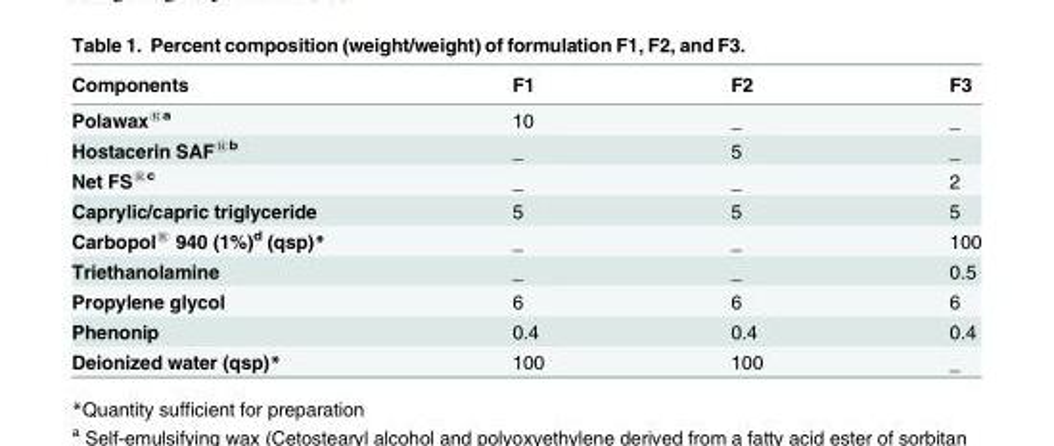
<table><thead><tr><td>Components</td><td>F1</td><td>F2</td><td>F3</td></tr></thead><tbody><tr><td>Polawax<sup>®a</sup></td><td>10</td><td>_</td><td>_</td></tr><tr><td>Hostacerin SAF<sup>®b</sup></td><td>_</td><td>5</td><td>_</td></tr><tr><td>Net FS<sup>®c</sup></td><td>_</td><td>_</td><td>2</td></tr><tr><td>Caprylic/capric triglyceride</td><td>5</td><td>5</td><td>5</td></tr><tr><td>Carbopol<sup>®</sup> 940 (1%)<sup>d</sup> (qsp)*</td><td>_</td><td>_</td><td>100</td></tr><tr><td>Triethanolamine</td><td>_</td><td>_</td><td>0.5</td></tr><tr><td>Propylene glycol</td><td>6</td><td>6</td><td>6</td></tr><tr><td>Phenonip</td><td>0.4</td><td>0.4</td><td>0.4</td></tr><tr><td>Deionized water (qsp)*</td><td>100</td><td>100</td><td>_</td></tr></tbody></table>